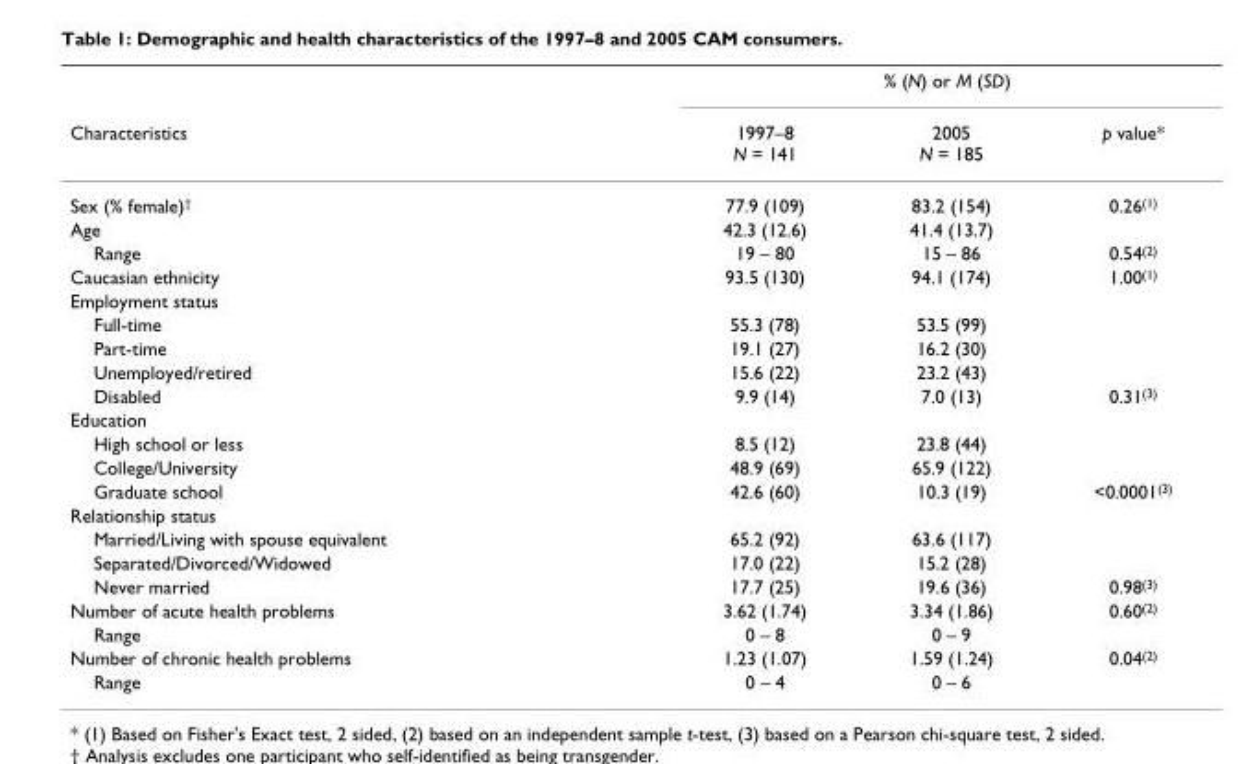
<table><thead><tr><td rowspan="2">Characteristics</td><td colspan="3">% (N) or M (SD)</td></tr><tr><td>1997–8 N = 141</td><td>2005 N = 185</td><td>p value*</td></tr></thead><tbody><tr><td>Sex (% female)<sup>†</sup></td><td>77.9 (109)</td><td>83.2 (154)</td><td>0.26<sup>(1)</sup></td></tr><tr><td>Age</td><td>42.3 (12.6)</td><td>41.4 (13.7)</td><td></td></tr><tr><td>Range</td><td>19 – 80</td><td>15 – 86</td><td>0.54<sup>(2)</sup></td></tr><tr><td>Caucasian ethnicity</td><td>93.5 (130)</td><td>94.1 (174)</td><td>1.00<sup>(1)</sup></td></tr><tr><td colspan="4">Employment status</td></tr><tr><td>Full-time</td><td>55.3 (78)</td><td>53.5 (99)</td><td></td></tr><tr><td>Part-time</td><td>19.1 (27)</td><td>16.2 (30)</td><td></td></tr><tr><td>Unemployed/retired</td><td>15.6 (22)</td><td>23.2 (43)</td><td></td></tr><tr><td>Disabled</td><td>9.9 (14)</td><td>7.0 (13)</td><td>0.31<sup>(3)</sup></td></tr><tr><td colspan="4">Education</td></tr><tr><td>High school or less</td><td>8.5 (12)</td><td>23.8 (44)</td><td></td></tr><tr><td>College/University</td><td>48.9 (69)</td><td>65.9 (122)</td><td></td></tr><tr><td>Graduate school</td><td>42.6 (60)</td><td>10.3 (19)</td><td>&lt;0.0001<sup>(3)</sup></td></tr><tr><td colspan="4">Relationship status</td></tr><tr><td>Married/Living with spouse equivalent</td><td>65.2 (92)</td><td>63.6 (117)</td><td></td></tr><tr><td>Separated/Divorced/Widowed</td><td>17.0 (22)</td><td>15.2 (28)</td><td></td></tr><tr><td>Never married</td><td>17.7 (25)</td><td>19.6 (36)</td><td>0.98<sup>(3)</sup></td></tr><tr><td>Number of acute health problems</td><td>3.62 (1.74)</td><td>3.34 (1.86)</td><td>0.60<sup>(2)</sup></td></tr><tr><td>Range</td><td>0 – 8</td><td>0 – 9</td><td></td></tr><tr><td>Number of chronic health problems</td><td>1.23 (1.07)</td><td>1.59 (1.24)</td><td>0.04<sup>(2)</sup></td></tr><tr><td>Range</td><td>0 – 4</td><td>0 – 6</td><td></td></tr></tbody></table>